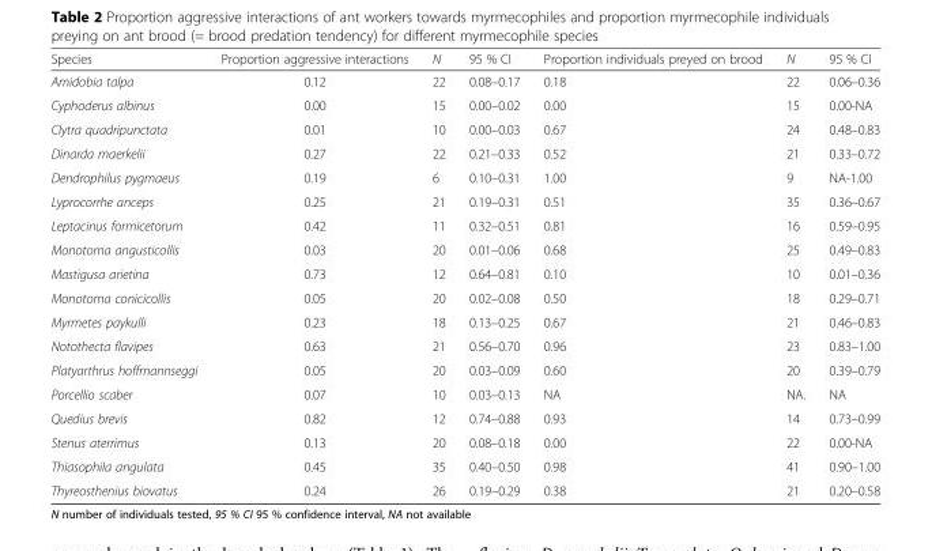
<table><thead><tr><td>Species</td><td>Proportion aggressive interactions</td><td>N</td><td>95 % CI</td><td>Proportion individuals preyed on brood</td><td>N</td><td>95 % CI</td></tr></thead><tbody><tr><td>Amidobia talpa</td><td>0.12</td><td>22</td><td>0.08–0.17</td><td>0.18</td><td>22</td><td>0.06–0.36</td></tr><tr><td>Cyphoderus albinus</td><td>0.00</td><td>15</td><td>0.00–0.02</td><td>0.00</td><td>15</td><td>0.00-NA</td></tr><tr><td>Clytra quadripunctata</td><td>0.01</td><td>10</td><td>0.00–0.03</td><td>0.67</td><td>24</td><td>0.48–0.83</td></tr><tr><td>Dinarda maerkelii</td><td>0.27</td><td>22</td><td>0.21–0.33</td><td>0.52</td><td>21</td><td>0.33–0.72</td></tr><tr><td>Dendrophilus pygmaeus</td><td>0.19</td><td>6</td><td>0.10–0.31</td><td>1.00</td><td>9</td><td>NA-1.00</td></tr><tr><td>Lyprocorrhe anceps</td><td>0.25</td><td>21</td><td>0.19–0.31</td><td>0.51</td><td>35</td><td>0.36–0.67</td></tr><tr><td>Leptacinus formicetorum</td><td>0.42</td><td>11</td><td>0.32–0.51</td><td>0.81</td><td>16</td><td>0.59–0.95</td></tr><tr><td>Monotoma angusticollis</td><td>0.03</td><td>20</td><td>0.01–0.06</td><td>0.68</td><td>25</td><td>0.49–0.83</td></tr><tr><td>Mastigusa arietina</td><td>0.73</td><td>12</td><td>0.64–0.81</td><td>0.10</td><td>10</td><td>0.01–0.36</td></tr><tr><td>Monotoma conicicollis</td><td>0.05</td><td>20</td><td>0.02–0.08</td><td>0.50</td><td>18</td><td>0.29–0.71</td></tr><tr><td>Myrmetes paykulli</td><td>0.23</td><td>18</td><td>0.13–0.25</td><td>0.67</td><td>21</td><td>0.46–0.83</td></tr><tr><td>Notothecta flavipes</td><td>0.63</td><td>21</td><td>0.56–0.70</td><td>0.96</td><td>23</td><td>0.83–1.00</td></tr><tr><td>Platyarthrus hoffmannseggi</td><td>0.05</td><td>20</td><td>0.03–0.09</td><td>0.60</td><td>20</td><td>0.39–0.79</td></tr><tr><td>Porcellio scaber</td><td>0.07</td><td>10</td><td>0.03–0.13</td><td>NA</td><td>NA.</td><td>NA</td></tr><tr><td>Quedius brevis</td><td>0.82</td><td>12</td><td>0.74–0.88</td><td>0.93</td><td>14</td><td>0.73–0.99</td></tr><tr><td>Stenus aterrimus</td><td>0.13</td><td>20</td><td>0.08–0.18</td><td>0.00</td><td>22</td><td>0.00-NA</td></tr><tr><td>Thiasophila angulata</td><td>0.45</td><td>35</td><td>0.40–0.50</td><td>0.98</td><td>41</td><td>0.90–1.00</td></tr><tr><td>Thyreosthenius biovatus</td><td>0.24</td><td>26</td><td>0.19–0.29</td><td>0.38</td><td>21</td><td>0.20–0.58</td></tr></tbody></table>